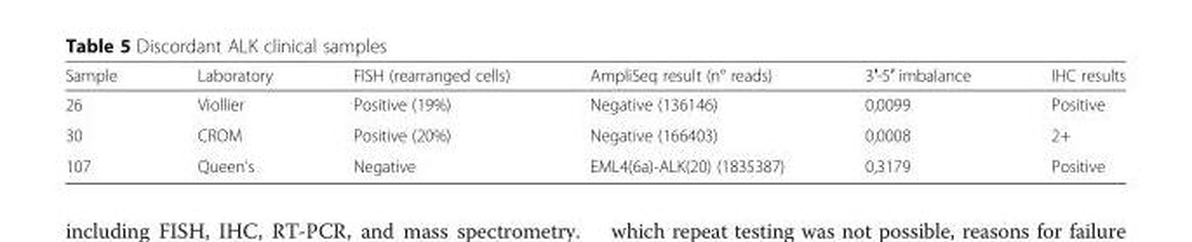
<table><thead><tr><td>Sample</td><td>Laboratory</td><td>FISH (rearranged cells)</td><td>AmpliSeq result (n° reads)</td><td>3′-5′ imbalance</td><td>IHC results</td></tr></thead><tbody><tr><td>26</td><td>Viollier</td><td>Positive (19%)</td><td>Negative (136146)</td><td>0,0099</td><td>Positive</td></tr><tr><td>30</td><td>CROM</td><td>Positive (20%)</td><td>Negative (166403)</td><td>0,0008</td><td>2+</td></tr><tr><td>107</td><td>Queen’s</td><td>Negative</td><td>EML4(6a)-ALK(20) (1835387)</td><td>0,3179</td><td>Positive</td></tr></tbody></table>